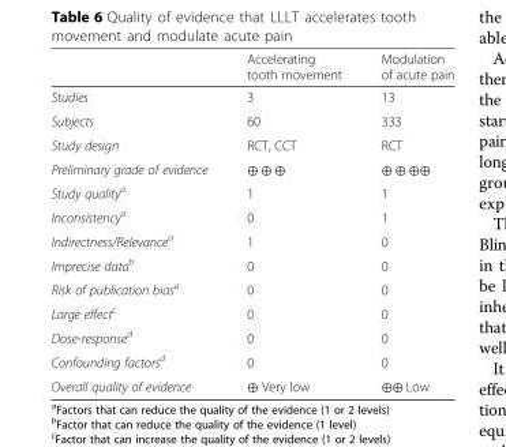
<table><thead><tr><td></td><td>Accelerating tooth movement</td><td>Modulation of acute pain</td></tr></thead><tbody><tr><td>Studies</td><td>3</td><td>13</td></tr><tr><td>Subjects</td><td>60</td><td>333</td></tr><tr><td>Study design</td><td>RCT, CCT</td><td>RCT</td></tr><tr><td>Preliminary grade of evidence</td><td>⊕ ⊕ ⊕</td><td>⊕ ⊕ ⊕⊕</td></tr><tr><td>Study quality<sup>a</sup></td><td>1</td><td>1</td></tr><tr><td>Inconsistency<sup>a</sup></td><td>0</td><td>1</td></tr><tr><td>Indirectness/Relevance<sup>a</sup></td><td>1</td><td>0</td></tr><tr><td>Imprecise data<sup>b</sup></td><td>0</td><td>0</td></tr><tr><td>Risk of publication bias<sup>a</sup></td><td>0</td><td>0</td></tr><tr><td>Large effect<sup>c</sup></td><td>0</td><td>0</td></tr><tr><td>Dose-response<sup>d</sup></td><td>0</td><td>0</td></tr><tr><td>Confounding factors<sup>d</sup></td><td>0</td><td>0</td></tr><tr><td>Overall quality of evidence</td><td>⊕ Very low</td><td>⊕⊕ Low</td></tr></tbody></table>